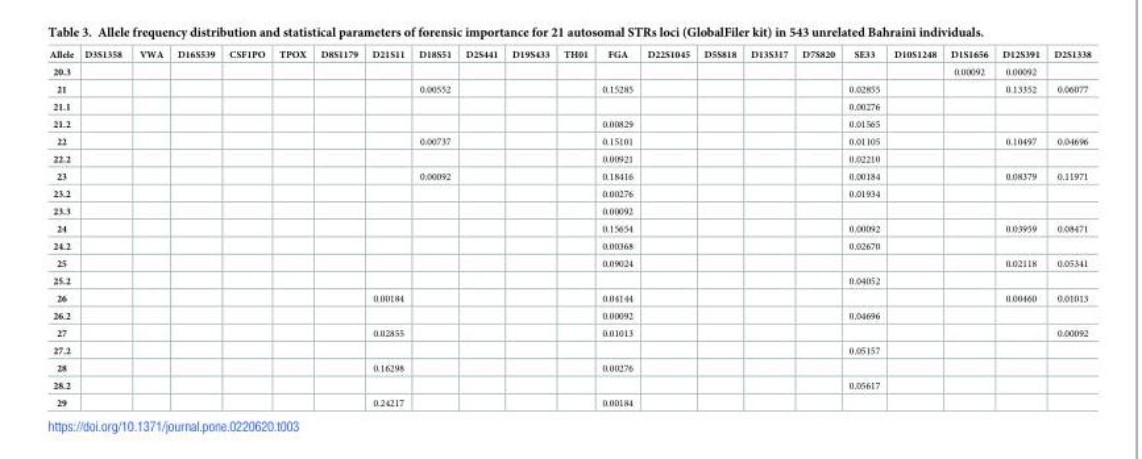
<table><thead><tr><td>Allele</td><td>D3S1358</td><td>VWA</td><td>D16S539</td><td>CSF1PO</td><td>TPOX</td><td>D8S1179</td><td>D21S11</td><td>D18S51</td><td>D2S441</td><td>D19S433</td><td>TH01</td><td>FGA</td><td>D22S1045</td><td>D5S818</td><td>D13S317</td><td>D7S820</td><td>SE33</td><td>D10S1248</td><td>D1S1656</td><td>D12S391</td><td>D2S1338</td></tr></thead><tbody><tr><td>20.3</td><td></td><td></td><td></td><td></td><td></td><td></td><td></td><td></td><td></td><td></td><td></td><td></td><td></td><td></td><td></td><td></td><td></td><td></td><td>0.00092</td><td>0.00092</td><td></td></tr><tr><td>21</td><td></td><td></td><td></td><td></td><td></td><td></td><td></td><td>0.00552</td><td></td><td></td><td></td><td>0.15285</td><td></td><td></td><td></td><td></td><td>0.02855</td><td></td><td></td><td>0.13352</td><td>0.06077</td></tr><tr><td>21.1</td><td></td><td></td><td></td><td></td><td></td><td></td><td></td><td></td><td></td><td></td><td></td><td></td><td></td><td></td><td></td><td></td><td>0.00276</td><td></td><td></td><td></td><td></td></tr><tr><td>21.2</td><td></td><td></td><td></td><td></td><td></td><td></td><td></td><td></td><td></td><td></td><td></td><td>0.00829</td><td></td><td></td><td></td><td></td><td>0.01565</td><td></td><td></td><td></td><td></td></tr><tr><td>22</td><td></td><td></td><td></td><td></td><td></td><td></td><td></td><td>0.00737</td><td></td><td></td><td></td><td>0.15101</td><td></td><td></td><td></td><td></td><td>0.01105</td><td></td><td></td><td>0.10497</td><td>0.04696</td></tr><tr><td>22.2</td><td></td><td></td><td></td><td></td><td></td><td></td><td></td><td></td><td></td><td></td><td></td><td>0.00921</td><td></td><td></td><td></td><td></td><td>0.02210</td><td></td><td></td><td></td><td></td></tr><tr><td>23</td><td></td><td></td><td></td><td></td><td></td><td></td><td></td><td>0.00092</td><td></td><td></td><td></td><td>0.18416</td><td></td><td></td><td></td><td></td><td>0.00184</td><td></td><td></td><td>0.08379</td><td>0.11971</td></tr><tr><td>23.2</td><td></td><td></td><td></td><td></td><td></td><td></td><td></td><td></td><td></td><td></td><td></td><td>0.00276</td><td></td><td></td><td></td><td></td><td>0.01934</td><td></td><td></td><td></td><td></td></tr><tr><td>23.3</td><td></td><td></td><td></td><td></td><td></td><td></td><td></td><td></td><td></td><td></td><td></td><td>0.00092</td><td></td><td></td><td></td><td></td><td></td><td></td><td></td><td></td><td></td></tr><tr><td>24</td><td></td><td></td><td></td><td></td><td></td><td></td><td></td><td></td><td></td><td></td><td></td><td>0.15654</td><td></td><td></td><td></td><td></td><td>0.00092</td><td></td><td></td><td>0.03959</td><td>0.08471</td></tr><tr><td>24.2</td><td></td><td></td><td></td><td></td><td></td><td></td><td></td><td></td><td></td><td></td><td></td><td>0.00368</td><td></td><td></td><td></td><td></td><td>0.02670</td><td></td><td></td><td></td><td></td></tr><tr><td>25</td><td></td><td></td><td></td><td></td><td></td><td></td><td></td><td></td><td></td><td></td><td></td><td>0.09024</td><td></td><td></td><td></td><td></td><td></td><td></td><td></td><td>0.02118</td><td>0.05341</td></tr><tr><td>25.2</td><td></td><td></td><td></td><td></td><td></td><td></td><td></td><td></td><td></td><td></td><td></td><td></td><td></td><td></td><td></td><td></td><td>0.04052</td><td></td><td></td><td></td><td></td></tr><tr><td>26</td><td></td><td></td><td></td><td></td><td></td><td></td><td>0.00184</td><td></td><td></td><td></td><td></td><td>0.04144</td><td></td><td></td><td></td><td></td><td></td><td></td><td></td><td>0.00460</td><td>0.01013</td></tr><tr><td>26.2</td><td></td><td></td><td></td><td></td><td></td><td></td><td></td><td></td><td></td><td></td><td></td><td>0.00092</td><td></td><td></td><td></td><td></td><td>0.04696</td><td></td><td></td><td></td><td></td></tr><tr><td>27</td><td></td><td></td><td></td><td></td><td></td><td></td><td>0.02855</td><td></td><td></td><td></td><td></td><td>0.01013</td><td></td><td></td><td></td><td></td><td></td><td></td><td></td><td></td><td>0.00092</td></tr><tr><td>27.2</td><td></td><td></td><td></td><td></td><td></td><td></td><td></td><td></td><td></td><td></td><td></td><td></td><td></td><td></td><td></td><td></td><td>0.05157</td><td></td><td></td><td></td><td></td></tr><tr><td>28</td><td></td><td></td><td></td><td></td><td></td><td></td><td>0.16298</td><td></td><td></td><td></td><td></td><td>0.00276</td><td></td><td></td><td></td><td></td><td></td><td></td><td></td><td></td><td></td></tr><tr><td>28.2</td><td></td><td></td><td></td><td></td><td></td><td></td><td></td><td></td><td></td><td></td><td></td><td></td><td></td><td></td><td></td><td></td><td>0.05617</td><td></td><td></td><td></td><td></td></tr><tr><td>29</td><td></td><td></td><td></td><td></td><td></td><td></td><td>0.24217</td><td></td><td></td><td></td><td></td><td>0.00184</td><td></td><td></td><td></td><td></td><td></td><td></td><td></td><td></td><td></td></tr></tbody></table>